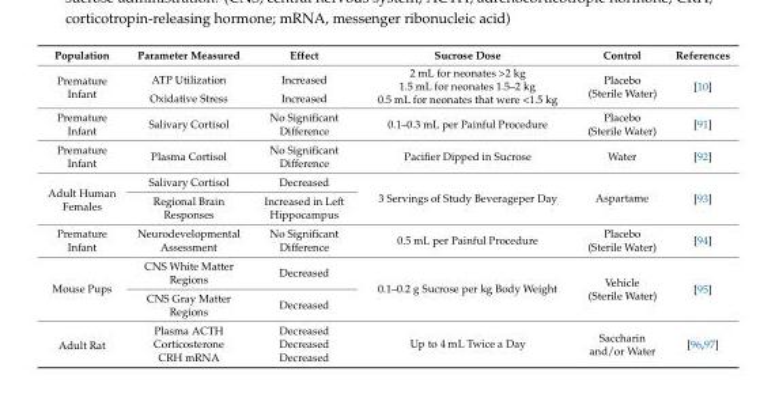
<table><thead><tr><td>Population</td><td>Parameter Measured</td><td>Effect</td><td>Sucrose Dose</td><td>Control</td><td>References</td></tr></thead><tbody><tr><td rowspan="2">Premature Infant</td><td>ATP Utilization</td><td>Increased</td><td rowspan="2">2 mL for neonates &gt;2 kg 1.5 mL for neonates 1.5–2 kg 0.5 mL for neonates that were &lt;1.5 kg</td><td rowspan="2">Placebo (Sterile Water)</td><td rowspan="2">[10]</td></tr><tr><td>Oxidative Stress</td><td>Increased</td></tr><tr><td>Premature Infant</td><td>Salivary Cortisol</td><td>No Significant Difference</td><td>0.1–0.3 mL per Painful Procedure</td><td>Placebo (Sterile Water)</td><td>[91]</td></tr><tr><td>Premature Infant</td><td>Plasma Cortisol</td><td>No Significant Difference</td><td>Pacifier Dipped in Sucrose</td><td>Water</td><td>[92]</td></tr><tr><td rowspan="2">Adult Human Females</td><td>Salivary Cortisol</td><td>Decreased</td><td rowspan="2">3 Servings of Study Beverageper Day</td><td rowspan="2">Aspartame</td><td rowspan="2">[93]</td></tr><tr><td>Regional Brain Responses</td><td>Increased in Left Hippocampus</td></tr><tr><td>Premature Infant</td><td>Neurodevelopmental Assessment</td><td>No Significant Difference</td><td>0.5 mL per Painful Procedure</td><td>Placebo (Sterile Water)</td><td>[94]</td></tr><tr><td rowspan="2">Mouse Pups</td><td>CNS White Matter Regions</td><td>Decreased</td><td rowspan="2">0.1–0.2 g Sucrose per kg Body Weight</td><td rowspan="2">Vehicle (Sterile Water)</td><td rowspan="2">[95]</td></tr><tr><td>CNS Gray Matter Regions</td><td>Decreased</td></tr><tr><td rowspan="3">Adult Rat</td><td>Plasma ACTH</td><td>Decreased</td><td rowspan="3">Up to 4 mL Twice a Day</td><td rowspan="3">Saccharin and/or Water</td><td rowspan="3">[96,97]</td></tr><tr><td>Corticosterone</td><td>Decreased</td></tr><tr><td>CRH mRNA</td><td>Decreased</td></tr></tbody></table>